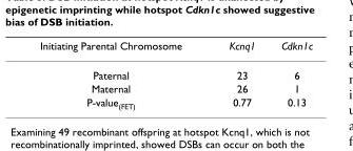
<table><thead><tr><td>Initiating Parental Chromosome</td><td>Kcnq1</td><td>Cdkn1c</td></tr></thead><tbody><tr><td>Paternal</td><td>23</td><td>6</td></tr><tr><td>Maternal</td><td>26</td><td>1</td></tr><tr><td>P-value<sub>(FET)</sub></td><td>0.77</td><td>0.13</td></tr></tbody></table>